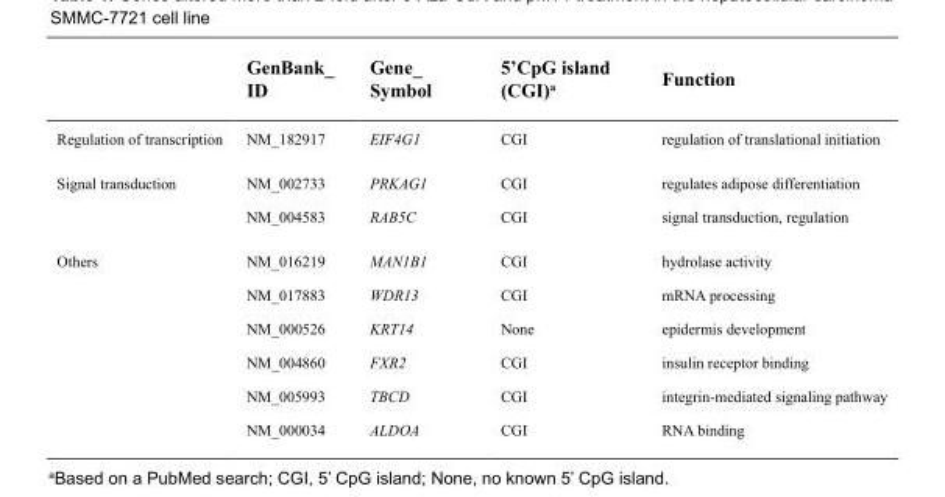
<table><thead><tr><td></td><td>GenBank_ ID</td><td>Gene_ Symbol</td><td>5’CpG island (CGI)<sup>a</sup></td><td>Function</td></tr></thead><tbody><tr><td>Regulation of transcription</td><td>NM_182917</td><td>EIF4G1</td><td>CGI</td><td>regulation of translational initiation</td></tr><tr><td rowspan="2">Signal transduction</td><td>NM_002733</td><td>PRKAG1</td><td>CGI</td><td>regulates adipose differentiation</td></tr><tr><td>NM_004583</td><td>RAB5C</td><td>CGI</td><td>signal transduction, regulation</td></tr><tr><td rowspan="6">Others</td><td>NM_016219</td><td>MAN1B1</td><td>CGI</td><td>hydrolase activity</td></tr><tr><td>NM_017883</td><td>WDR13</td><td>CGI</td><td>mRNA processing</td></tr><tr><td>NM_000526</td><td>KRT14</td><td>None</td><td>epidermis development</td></tr><tr><td>NM_004860</td><td>FXR2</td><td>CGI</td><td>insulin receptor binding</td></tr><tr><td>NM_005993</td><td>TBCD</td><td>CGI</td><td>integrin-mediated signaling pathway</td></tr><tr><td>NM_000034</td><td>ALDOA</td><td>CGI</td><td>RNA binding</td></tr></tbody></table>